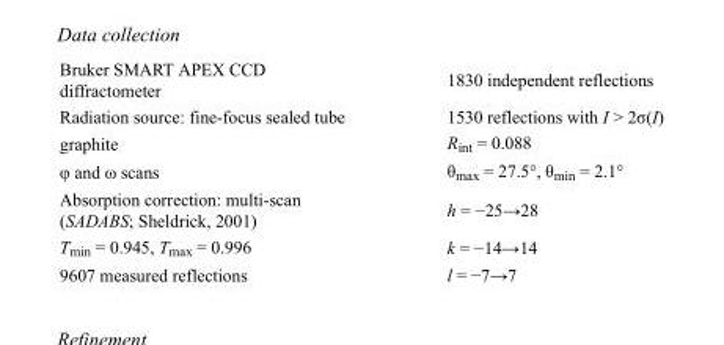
<table><tbody><tr><td>Bruker SMART APEX CCD diffractometer</td><td>1830 independent reflections</td></tr><tr><td>Radiation source: fine-focus sealed tube</td><td>1530 reflections with I &gt; 2σ(I)</td></tr><tr><td>graphite</td><td>R<sub>int</sub> = 0.088</td></tr><tr><td>φ and ω scans</td><td>θ<sub>max</sub> = 27.5°, θ<sub>min</sub> = 2.1°</td></tr><tr><td>Absorption correction: multi-scan (SADABS; Sheldrick, 2001)</td><td>h = −25→28</td></tr><tr><td>T<sub>min</sub> = 0.945, T<sub>max</sub> = 0.996</td><td>k = −14→14</td></tr><tr><td>9607 measured reflections</td><td>l = −7→7</td></tr></tbody></table>